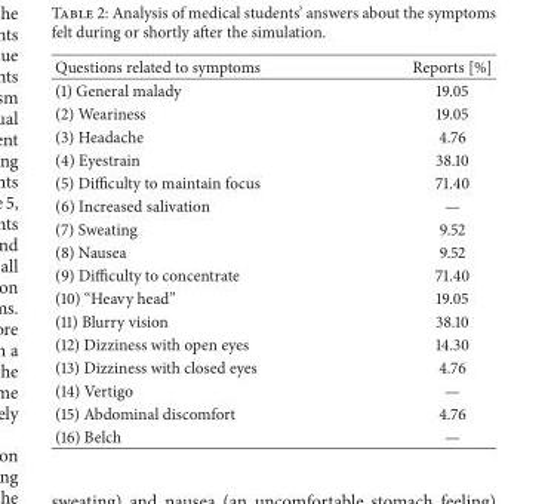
<table><thead><tr><td>Questions related to symptoms</td><td>Reports [%]</td></tr></thead><tbody><tr><td>(1) General malady</td><td>19.05</td></tr><tr><td>(2) Weariness</td><td>19.05</td></tr><tr><td>(3) Headache</td><td>4.76</td></tr><tr><td>(4) Eyestrain</td><td>38.10</td></tr><tr><td>(5) Difficulty to maintain focus</td><td>71.40</td></tr><tr><td>(6) Increased salivation</td><td>—</td></tr><tr><td>(7) Sweating</td><td>9.52</td></tr><tr><td>(8) Nausea</td><td>9.52</td></tr><tr><td>(9) Difficulty to concentrate</td><td>71.40</td></tr><tr><td>(10) “Heavy head”</td><td>19.05</td></tr><tr><td>(11) Blurry vision</td><td>38.10</td></tr><tr><td>(12) Dizziness with open eyes</td><td>14.30</td></tr><tr><td>(13) Dizziness with closed eyes</td><td>4.76</td></tr><tr><td>(14) Vertigo</td><td>—</td></tr><tr><td>(15) Abdominal discomfort</td><td>4.76</td></tr><tr><td>(16) Belch</td><td>—</td></tr></tbody></table>